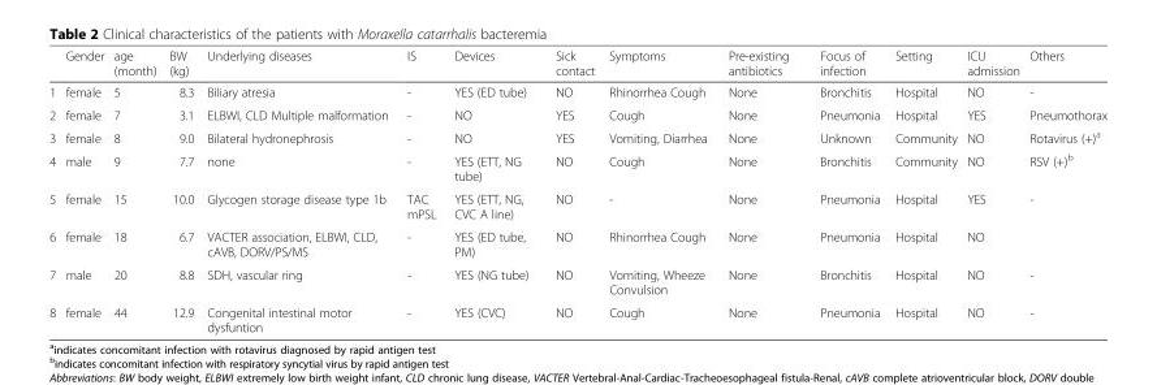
<table><thead><tr><td></td><td>Gender</td><td>age (month)</td><td>BW (kg)</td><td>Underlying diseases</td><td>IS</td><td>Devices</td><td>Sick contact</td><td>Symptoms</td><td>Pre-existing antibiotics</td><td>Focus of infection</td><td>Setting</td><td>ICU admission</td><td>Others</td></tr></thead><tbody><tr><td>1</td><td>female</td><td>5</td><td>8.3</td><td>Biliary atresia</td><td>-</td><td>YES (ED tube)</td><td>NO</td><td>Rhinorrhea Cough</td><td>None</td><td>Bronchitis</td><td>Hospital</td><td>NO</td><td>-</td></tr><tr><td>2</td><td>female</td><td>7</td><td>3.1</td><td>ELBWI, CLD Multiple malformation</td><td>-</td><td>NO</td><td>YES</td><td>Cough</td><td>None</td><td>Pneumonia</td><td>Hospital</td><td>YES</td><td>Pneumothorax</td></tr><tr><td>3</td><td>female</td><td>8</td><td>9.0</td><td>Bilateral hydronephrosis</td><td>-</td><td>NO</td><td>YES</td><td>Vomiting, Diarrhea</td><td>None</td><td>Unknown</td><td>Community</td><td>NO</td><td>Rotavirus (+)<sup>a</sup></td></tr><tr><td>4</td><td>male</td><td>9</td><td>7.7</td><td>none</td><td>-</td><td>YES (ETT, NG tube)</td><td>NO</td><td>Cough</td><td>None</td><td>Bronchitis</td><td>Community</td><td>NO</td><td>RSV (+)<sup>b</sup></td></tr><tr><td>5</td><td>female</td><td>15</td><td>10.0</td><td>Glycogen storage disease type 1b</td><td>TAC mPSL</td><td>YES (ETT, NG, CVC A line)</td><td>NO</td><td>-</td><td>None</td><td>Pneumonia</td><td>Hospital</td><td>YES</td><td>-</td></tr><tr><td>6</td><td>female</td><td>18</td><td>6.7</td><td>VACTER association, ELBWI, CLD, cAVB, DORV/PS/MS</td><td>-</td><td>YES (ED tube, PM)</td><td>NO</td><td>Rhinorrhea Cough</td><td>None</td><td>Pneumonia</td><td>Hospital</td><td>NO</td><td></td></tr><tr><td>7</td><td>male</td><td>20</td><td>8.8</td><td>SDH, vascular ring</td><td>-</td><td>YES (NG tube)</td><td>NO</td><td>Vomiting, Wheeze Convulsion</td><td>None</td><td>Bronchitis</td><td>Hospital</td><td>NO</td><td>-</td></tr><tr><td>8</td><td>female</td><td>44</td><td>12.9</td><td>Congenital intestinal motor dysfuntion</td><td>-</td><td>YES (CVC)</td><td>NO</td><td>Cough</td><td>None</td><td>Pneumonia</td><td>Hospital</td><td>NO</td><td>-</td></tr></tbody></table>